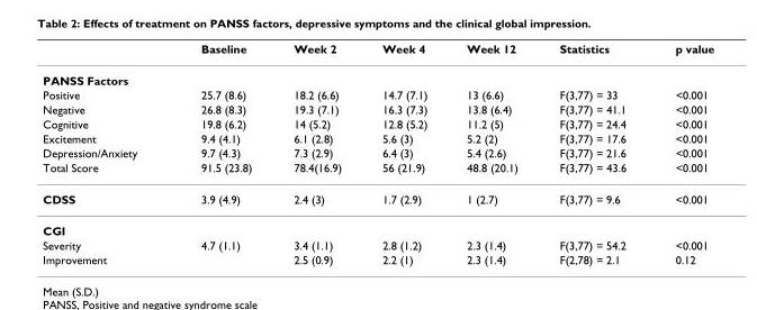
<table><thead><tr><td></td><td>Baseline</td><td>Week 2</td><td>Week 4</td><td>Week 12</td><td>Statistics</td><td>p value</td></tr></thead><tbody><tr><td colspan="7">PANSS Factors</td></tr><tr><td>Positive</td><td>25.7 (8.6)</td><td>18.2 (6.6)</td><td>14.7 (7.1)</td><td>13 (6.6)</td><td>F(3,77) = 33</td><td>&lt;0.001</td></tr><tr><td>Negative</td><td>26.8 (8.3)</td><td>19.3 (7.1)</td><td>16.3 (7.3)</td><td>13.8 (6.4)</td><td>F(3,77) = 41.1</td><td>&lt;0.001</td></tr><tr><td>Cognitive</td><td>19.8 (6.2)</td><td>14 (5.2)</td><td>12.8 (5.2)</td><td>11.2 (5)</td><td>F(3,77) = 24.4</td><td>&lt;0.001</td></tr><tr><td>Excitement</td><td>9.4 (4.1)</td><td>6.1 (2.8)</td><td>5.6 (3)</td><td>5.2 (2)</td><td>F(3,77) = 17.6</td><td>&lt;0.001</td></tr><tr><td>Depression/Anxiety</td><td>9.7 (4.3)</td><td>7.3 (2.9)</td><td>6.4 (3)</td><td>5.4 (2.6)</td><td>F(3,77) = 21.6</td><td>&lt;0.001</td></tr><tr><td>Total Score</td><td>91.5 (23.8)</td><td>78.4(16.9)</td><td>56 (21.9)</td><td>48.8 (20.1)</td><td>F(3,77) = 43.6</td><td>&lt;0.001</td></tr><tr><td>CDSS</td><td>3.9 (4.9)</td><td>2.4 (3)</td><td>1.7 (2.9)</td><td>1 (2.7)</td><td>F(3,77) = 9.6</td><td>&lt;0.001</td></tr><tr><td colspan="7">CGI</td></tr><tr><td>Severity</td><td>4.7 (1.1)</td><td>3.4 (1.1)</td><td>2.8 (1.2)</td><td>2.3 (1.4)</td><td>F(3,77) = 54.2</td><td>&lt;0.001</td></tr><tr><td>Improvement</td><td></td><td>2.5 (0.9)</td><td>2.2 (1)</td><td>2.3 (1.4)</td><td>F(2,78) = 2.1</td><td>0.12</td></tr></tbody></table>